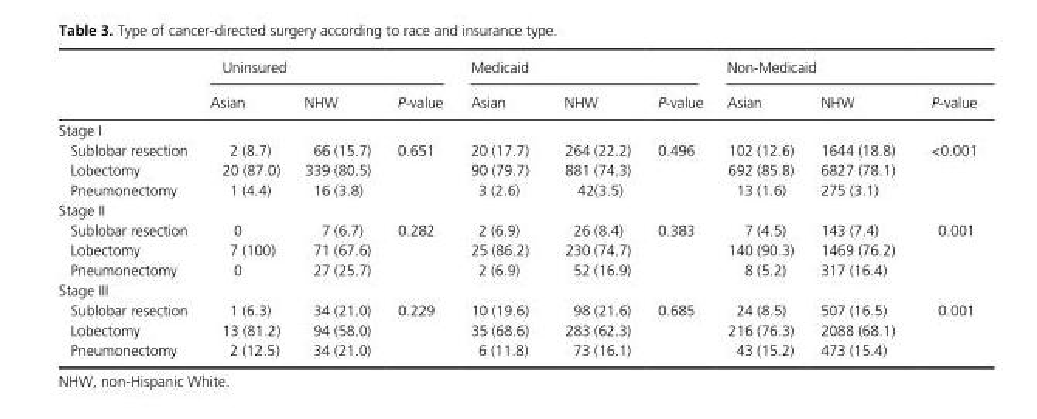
<table><thead><tr><td rowspan="2"></td><td colspan="3">Uninsured</td><td colspan="3">Medicaid</td><td colspan="3">Non- Medicaid</td></tr><tr><td>Asian</td><td>NHW</td><td>P- value</td><td>Asian</td><td>NHW</td><td>P- value</td><td>Asian</td><td>NHW</td><td>P- value</td></tr></thead><tbody><tr><td colspan="10">Stage I</td></tr><tr><td>Sublobar resection</td><td>2 (8.7)</td><td>66 (15.7)</td><td rowspan="3">0.651</td><td>20 (17.7)</td><td>264 (22.2)</td><td rowspan="3">0.496</td><td>102 (12.6)</td><td>1644 (18.8)</td><td rowspan="3">&lt;0.001</td></tr><tr><td>Lobectomy</td><td>20 (87.0)</td><td>339 (80.5)</td><td>90 (79.7)</td><td>881 (74.3)</td><td>692 (85.8)</td><td>6827 (78.1)</td></tr><tr><td>Pneumonectomy</td><td>1 (4.4)</td><td>16 (3.8)</td><td>3 (2.6)</td><td>42(3.5)</td><td>13 (1.6)</td><td>275 (3.1)</td></tr><tr><td colspan="10">Stage II</td></tr><tr><td>Sublobar resection</td><td>0</td><td>7 (6.7)</td><td rowspan="3">0.282</td><td>2 (6.9)</td><td>26 (8.4)</td><td rowspan="3">0.383</td><td>7 (4.5)</td><td>143 (7.4)</td><td rowspan="3">0.001</td></tr><tr><td>Lobectomy</td><td>7 (100)</td><td>71 (67.6)</td><td>25 (86.2)</td><td>230 (74.7)</td><td>140 (90.3)</td><td>1469 (76.2)</td></tr><tr><td>Pneumonectomy</td><td>0</td><td>27 (25.7)</td><td>2 (6.9)</td><td>52 (16.9)</td><td>8 (5.2)</td><td>317 (16.4)</td></tr><tr><td colspan="10">Stage III</td></tr><tr><td>Sublobar resection</td><td>1 (6.3)</td><td>34 (21.0)</td><td rowspan="3">0.229</td><td>10 (19.6)</td><td>98 (21.6)</td><td rowspan="3">0.685</td><td>24 (8.5)</td><td>507 (16.5)</td><td rowspan="3">0.001</td></tr><tr><td>Lobectomy</td><td>13 (81.2)</td><td>94 (58.0)</td><td>35 (68.6)</td><td>283 (62.3)</td><td>216 (76.3)</td><td>2088 (68.1)</td></tr><tr><td>Pneumonectomy</td><td>2 (12.5)</td><td>34 (21.0)</td><td>6 (11.8)</td><td>73 (16.1)</td><td>43 (15.2)</td><td>473 (15.4)</td></tr></tbody></table>